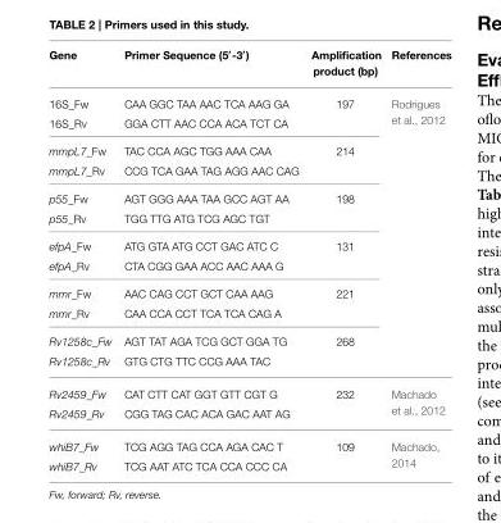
<table><thead><tr><td>Gene</td><td>Primer Sequence (5′-3′)</td><td>Amplification product (bp)</td><td>References</td></tr></thead><tbody><tr><td>16S_Fw</td><td>CAA GGC TAA AAC TCA AAG GA</td><td rowspan="2">197</td><td rowspan="2">Rodrigues et al., 2012</td></tr><tr><td>16S_Rv</td><td>GGA CTT AAC CCA ACA TCT CA</td></tr><tr><td>mmpL7_Fw</td><td>TAC CCA AGC TGG AAA CAA</td><td>214</td><td></td></tr><tr><td>mmpL7_Rv</td><td>CCG TCA GAA TAG AGG AAC CAG</td><td></td><td></td></tr><tr><td>p55_Fw</td><td>AGT GGG AAA TAA GCC AGT AA</td><td>198</td><td></td></tr><tr><td>p55_Rv</td><td>TGG TTG ATG TCG AGC TGT</td><td></td><td></td></tr><tr><td>efpA_Fw</td><td>ATG GTA ATG CCT GAC ATC C</td><td>131</td><td></td></tr><tr><td>efpA_Rv</td><td>CTA CGG GAA ACC AAC AAA G</td><td></td><td></td></tr><tr><td>mmr_Fw</td><td>AAC CAG CCT GCT CAA AAG</td><td>221</td><td></td></tr><tr><td>mmr_Rv</td><td>CAA CCA CCT TCA TCA CAG A</td><td></td><td></td></tr><tr><td>Rv1258c_Fw</td><td>AGT TAT AGA TCG GCT GGA TG</td><td>268</td><td></td></tr><tr><td>Rv1258c_Rv</td><td>GTG CTG TTC CCG AAA TAC</td><td></td><td></td></tr><tr><td>Rv2459_Fw</td><td>CAT CTT CAT GGT GTT CGT G</td><td rowspan="2">232</td><td rowspan="2">Machado et al., 2012</td></tr><tr><td>Rv2459_Rv</td><td>CGG TAG CAC ACA GAC AAT AG</td></tr><tr><td>whiB7_Fw</td><td>TCG AGG TAG CCA AGA CAC T</td><td rowspan="2">109</td><td rowspan="2">Machado, 2014</td></tr><tr><td>whiB7_Rv</td><td>TCG AAT ATC TCA CCA CCC CA</td></tr></tbody></table>